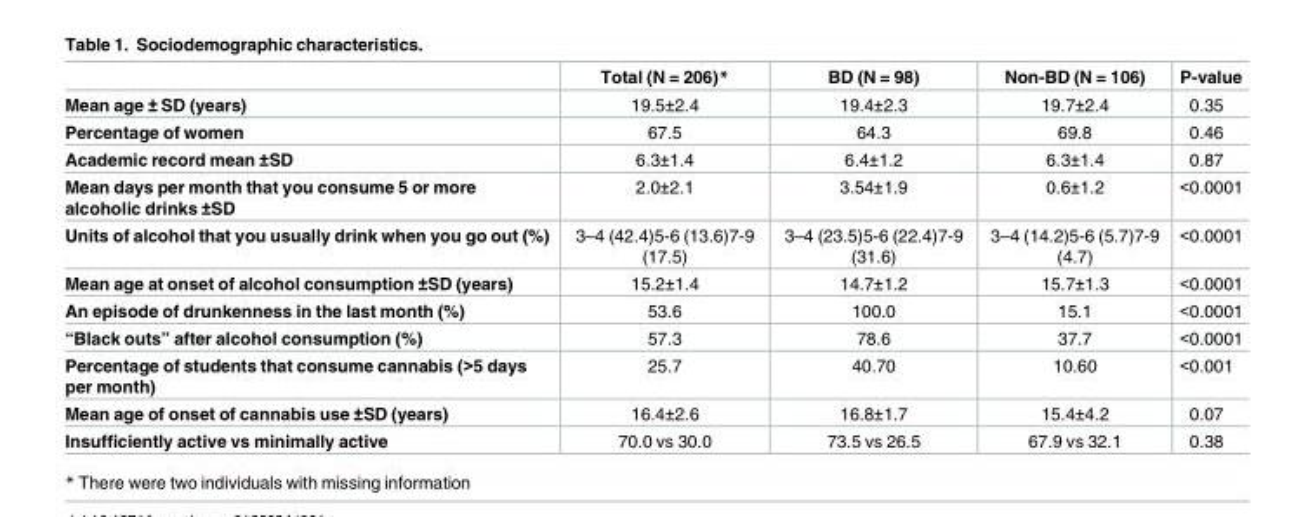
<table><thead><tr><td></td><td>Total (N = 206)*</td><td>BD (N = 98)</td><td>Non-BD (N = 106)</td><td>P-value</td></tr></thead><tbody><tr><td>Mean age ± SD (years)</td><td>19.5±2.4</td><td>19.4±2.3</td><td>19.7±2.4</td><td>0.35</td></tr><tr><td>Percentage of women</td><td>67.5</td><td>64.3</td><td>69.8</td><td>0.46</td></tr><tr><td>Academic record mean ±SD</td><td>6.3±1.4</td><td>6.4±1.2</td><td>6.3±1.4</td><td>0.87</td></tr><tr><td>Mean days per month that you consume 5 or more alcoholic drinks ±SD</td><td>2.0±2.1</td><td>3.54±1.9</td><td>0.6±1.2</td><td>&lt;0.0001</td></tr><tr><td>Units of alcohol that you usually drink when you go out (%)</td><td>3–4 (42.4)5-6 (13.6)7-9 (17.5)</td><td>3–4 (23.5)5-6 (22.4)7-9 (31.6)</td><td>3–4 (14.2)5-6 (5.7)7-9 (4.7)</td><td>&lt;0.0001</td></tr><tr><td>Mean age at onset of alcohol consumption ±SD (years)</td><td>15.2±1.4</td><td>14.7±1.2</td><td>15.7±1.3</td><td>&lt;0.0001</td></tr><tr><td>An episode of drunkenness in the last month (%)</td><td>53.6</td><td>100.0</td><td>15.1</td><td>&lt;0.0001</td></tr><tr><td>“Black outs” after alcohol consumption (%)</td><td>57.3</td><td>78.6</td><td>37.7</td><td>&lt;0.0001</td></tr><tr><td>Percentage of students that consume cannabis (&gt;5 days per month)</td><td>25.7</td><td>40.70</td><td>10.60</td><td>&lt;0.001</td></tr><tr><td>Mean age of onset of cannabis use ±SD (years)</td><td>16.4±2.6</td><td>16.8±1.7</td><td>15.4±4.2</td><td>0.07</td></tr><tr><td>Insufficiently active vs minimally active</td><td>70.0 vs 30.0</td><td>73.5 vs 26.5</td><td>67.9 vs 32.1</td><td>0.38</td></tr></tbody></table>